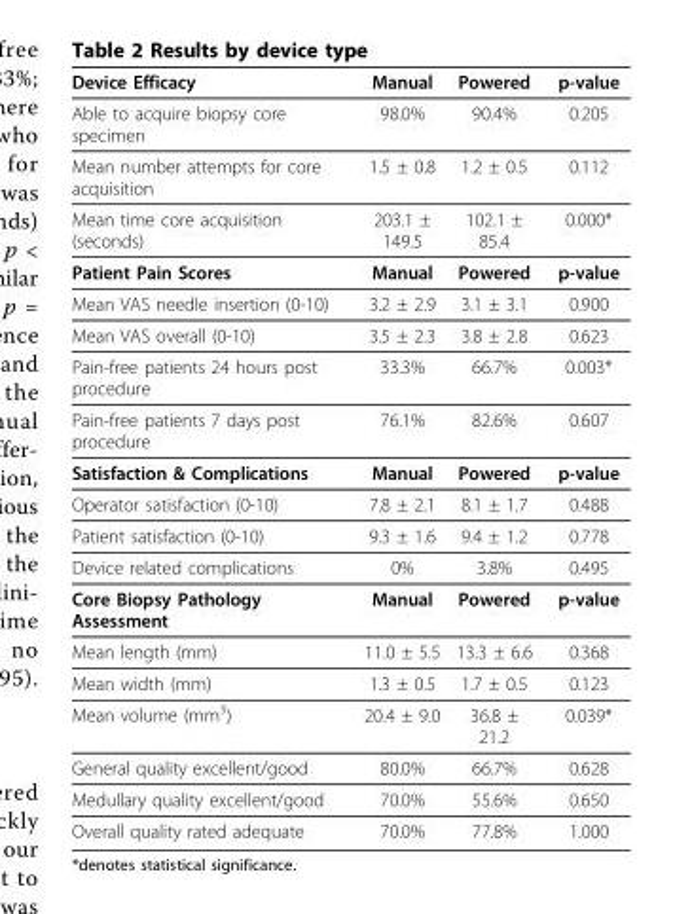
<table><thead><tr><td>Device Efficacy</td><td>Manual</td><td>Powered</td><td>p-value</td></tr></thead><tbody><tr><td>Able to acquire biopsy core specimen</td><td>98.0%</td><td>90.4%</td><td>0.205</td></tr><tr><td>Mean number attempts for core acquisition</td><td>1.5 ± 0.8</td><td>1.2 ± 0.5</td><td>0.112</td></tr><tr><td>Mean time core acquisition (seconds)</td><td>203.1 ± 149.5</td><td>102.1 ± 85.4</td><td>0.000*</td></tr><tr><td>Patient Pain Scores</td><td>Manual</td><td>Powered</td><td>p-value</td></tr><tr><td>Mean VAS needle insertion (0-10)</td><td>3.2 ± 2.9</td><td>3.1 ± 3.1</td><td>0.900</td></tr><tr><td>Mean VAS overall (0-10)</td><td>3.5 ± 2.3</td><td>3.8 ± 2.8</td><td>0.623</td></tr><tr><td>Pain-free patients 24 hours post procedure</td><td>33.3%</td><td>66.7%</td><td>0.003*</td></tr><tr><td>Pain-free patients 7 days post procedure</td><td>76.1%</td><td>82.6%</td><td>0.607</td></tr><tr><td>Satisfaction &amp; Complications</td><td>Manual</td><td>Powered</td><td>p-value</td></tr><tr><td>Operator satisfaction (0-10)</td><td>7.8 ± 2.1</td><td>8.1 ± 1.7</td><td>0.488</td></tr><tr><td>Patient satisfaction (0-10)</td><td>9.3 ± 1.6</td><td>9.4 ± 1.2</td><td>0.778</td></tr><tr><td>Device related complications</td><td>0%</td><td>3.8%</td><td>0.495</td></tr><tr><td>Core Biopsy Pathology Assessment</td><td>Manual</td><td>Powered</td><td>p-value</td></tr><tr><td>Mean length (mm)</td><td>11.0 ± 5.5</td><td>13.3 ± 6.6</td><td>0.368</td></tr><tr><td>Mean width (mm)</td><td>1.3 ± 0.5</td><td>1.7 ± 0.5</td><td>0.123</td></tr><tr><td>Mean volume (mm<sup>3</sup>)</td><td>20.4 ± 9.0</td><td>36.8 ± 21.2</td><td>0.039*</td></tr><tr><td>General quality excellent/good</td><td>80.0%</td><td>66.7%</td><td>0.628</td></tr><tr><td>Medullary quality excellent/good</td><td>70.0%</td><td>55.6%</td><td>0.650</td></tr><tr><td>Overall quality rated adequate</td><td>70.0%</td><td>77.8%</td><td>1.000</td></tr></tbody></table>